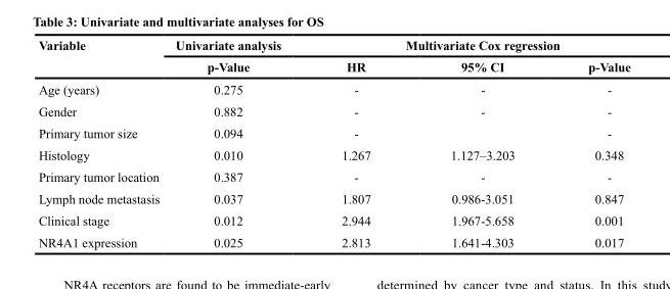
<table><thead><tr><td rowspan="2">Variable</td><td rowspan="2">Univariate analysis p-Value</td><td colspan="3">Multivariate Cox regression</td></tr><tr><td>HR</td><td>95% CI</td><td>p-Value</td></tr></thead><tbody><tr><td>Age (years)</td><td>0.275</td><td>-</td><td>-</td><td>-</td></tr><tr><td>Gender</td><td>0.882</td><td>-</td><td>-</td><td>-</td></tr><tr><td>Primary tumor size</td><td>0.094</td><td>-</td><td></td><td>-</td></tr><tr><td>Histology</td><td>0.010</td><td>1.267</td><td>1.127–3.203</td><td>0.348</td></tr><tr><td>Primary tumor location</td><td>0.387</td><td>-</td><td>-</td><td>-</td></tr><tr><td>Lymph node metastasis</td><td>0.037</td><td>1.807</td><td>0.986-3.051</td><td>0.847</td></tr><tr><td>Clinical stage</td><td>0.012</td><td>2.944</td><td>1.967-5.658</td><td>0.001</td></tr><tr><td>NR4A1 expression</td><td>0.025</td><td>2.813</td><td>1.641-4.303</td><td>0.017</td></tr></tbody></table>